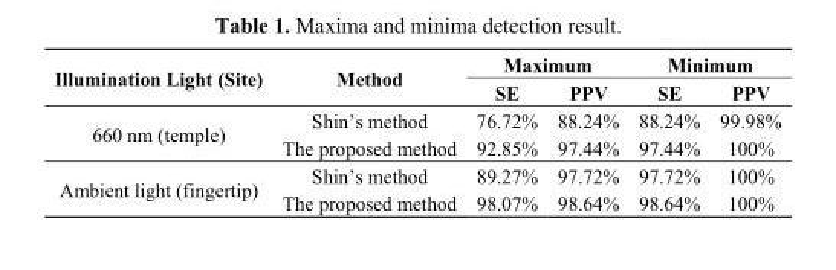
<table><thead><tr><td rowspan="2">Illumination Light (Site)</td><td rowspan="2">Method</td><td colspan="2">Maximum</td><td colspan="2">Minimum</td></tr><tr><td>SE</td><td>PPV</td><td>SE</td><td>PPV</td></tr></thead><tbody><tr><td rowspan="2">660 nm (temple)</td><td>Shin’s method</td><td>76.72%</td><td>88.24%</td><td>88.24%</td><td>99.98%</td></tr><tr><td>The proposed method</td><td>92.85%</td><td>97.44%</td><td>97.44%</td><td>100%</td></tr><tr><td rowspan="2">Ambient light (fingertip)</td><td>Shin’s method</td><td>89.27%</td><td>97.72%</td><td>97.72%</td><td>100%</td></tr><tr><td>The proposed method</td><td>98.07%</td><td>98.64%</td><td>98.64%</td><td>100%</td></tr></tbody></table>